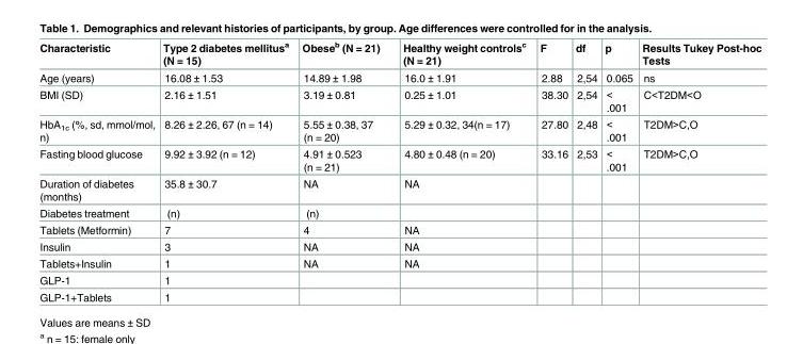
<table><thead><tr><td>Characteristic</td><td>Type 2 diabetes mellitus<sup>a</sup> (N = 15)</td><td>Obese<sup>b</sup> (N = 21)</td><td>Healthy weight controls<sup>c</sup> (N = 21)</td><td>F</td><td>df</td><td>p</td><td>Results Tukey Post-hoc Tests</td></tr></thead><tbody><tr><td>Age (years)</td><td>16.08 ± 1.53</td><td>14.89 ± 1.98</td><td>16.0 ± 1.91</td><td>2.88</td><td>2,54</td><td>0.065</td><td>ns</td></tr><tr><td>BMI (SD)</td><td>2.16 ± 1.51</td><td>3.19 ± 0.81</td><td>0.25 ± 1.01</td><td>38.30</td><td>2,54</td><td>&lt; .001</td><td>C&lt;T2DM&lt;O</td></tr><tr><td>HbA<sub>1c</sub> (%, sd, mmol/mol, n)</td><td>8.26 ± 2.26, 67 (n = 14)</td><td>5.55 ± 0.38, 37 (n = 20)</td><td>5.29 ± 0.32, 34(n = 17)</td><td>27.80</td><td>2,48</td><td>&lt; .001</td><td>T2DM&gt;C,O</td></tr><tr><td>Fasting blood glucose</td><td>9.92 ± 3.92 (n = 12)</td><td>4.91 ± 0.523 (n = 21)</td><td>4.80 ± 0.48 (n = 20)</td><td>33.16</td><td>2,53</td><td>&lt; .001</td><td>T2DM&gt;C,O</td></tr><tr><td>Duration of diabetes (months)</td><td>35.8 ± 30.7</td><td>NA</td><td>NA</td><td></td><td></td><td></td><td></td></tr><tr><td>Diabetes treatment</td><td>(n)</td><td>(n)</td><td></td><td></td><td></td><td></td><td></td></tr><tr><td>Tablets (Metformin)</td><td>7</td><td>4</td><td>NA</td><td></td><td></td><td></td><td></td></tr><tr><td>Insulin</td><td>3</td><td>NA</td><td>NA</td><td></td><td></td><td></td><td></td></tr><tr><td>Tablets+Insulin</td><td>1</td><td>NA</td><td>NA</td><td></td><td></td><td></td><td></td></tr><tr><td>GLP-1</td><td>1</td><td></td><td></td><td></td><td></td><td></td><td></td></tr><tr><td>GLP-1+Tablets</td><td>1</td><td></td><td></td><td></td><td></td><td></td><td></td></tr></tbody></table>